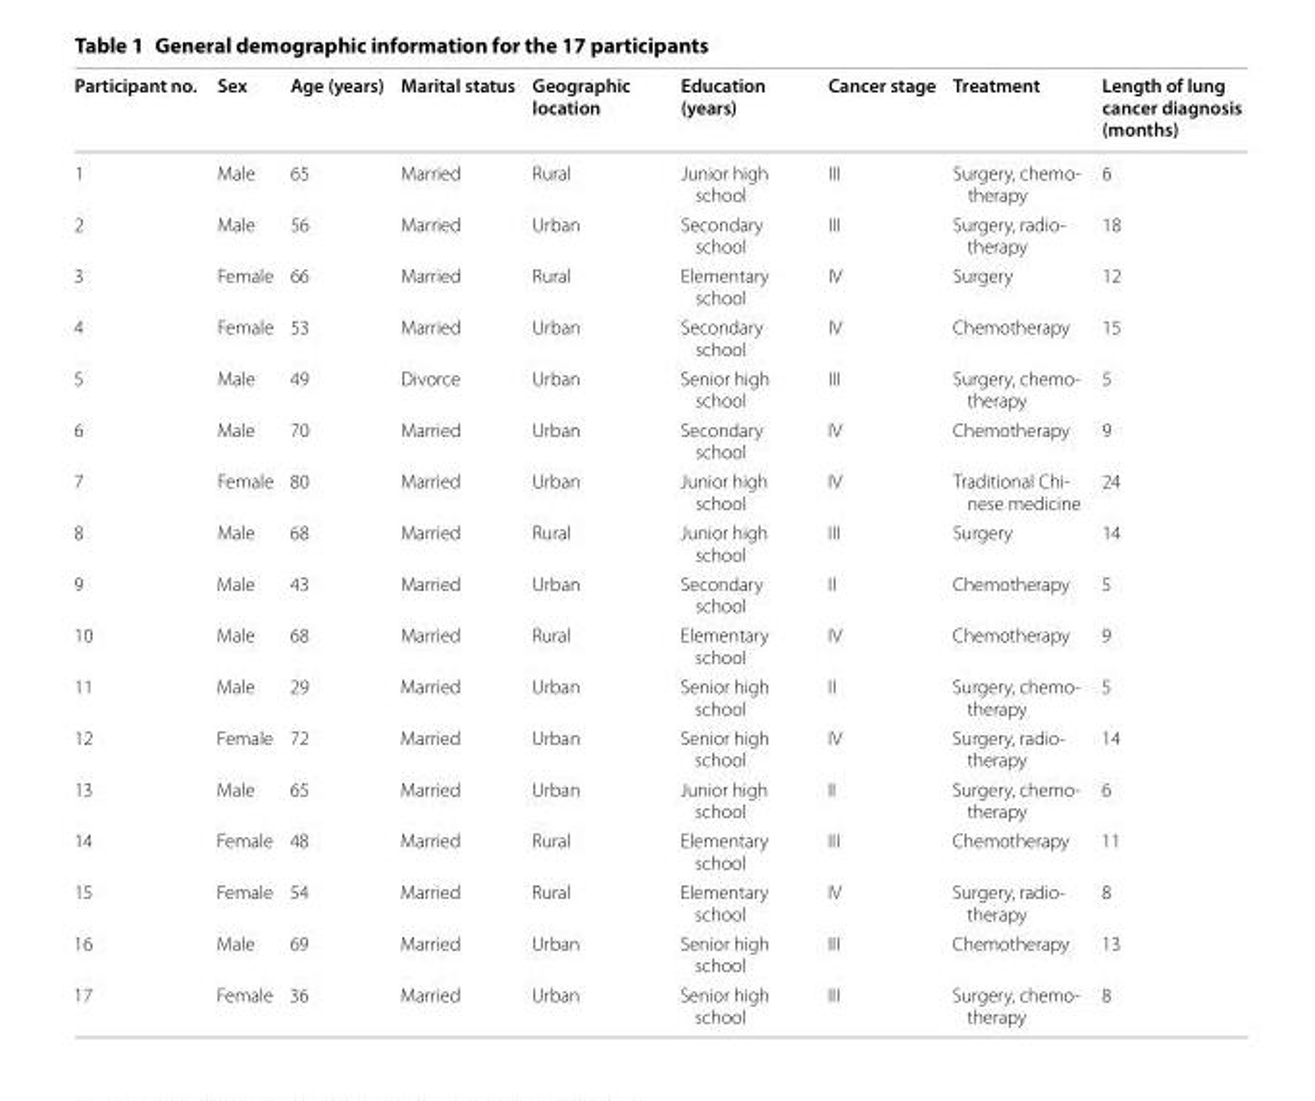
<table><thead><tr><td>Participant no.</td><td>Sex</td><td>Age (years)</td><td>Marital status</td><td>Geographic location</td><td>Education (years)</td><td>Cancer stage</td><td>Treatment</td><td>Length of lung cancer diagnosis (months)</td></tr></thead><tbody><tr><td>1</td><td>Male</td><td>65</td><td>Married</td><td>Rural</td><td>Junior high school</td><td>III</td><td>Surgery, chemo- therapy</td><td>6</td></tr><tr><td>2</td><td>Male</td><td>56</td><td>Married</td><td>Urban</td><td>Secondary school</td><td>III</td><td>Surgery, radio- therapy</td><td>18</td></tr><tr><td>3</td><td>Female</td><td>66</td><td>Married</td><td>Rural</td><td>Elementary school</td><td>IV</td><td>Surgery</td><td>12</td></tr><tr><td>4</td><td>Female</td><td>53</td><td>Married</td><td>Urban</td><td>Secondary school</td><td>IV</td><td>Chemotherapy</td><td>15</td></tr><tr><td>5</td><td>Male</td><td>49</td><td>Divorce</td><td>Urban</td><td>Senior high school</td><td>III</td><td>Surgery, chemo- therapy</td><td>5</td></tr><tr><td>6</td><td>Male</td><td>70</td><td>Married</td><td>Urban</td><td>Secondary school</td><td>IV</td><td>Chemotherapy</td><td>9</td></tr><tr><td>7</td><td>Female</td><td>80</td><td>Married</td><td>Urban</td><td>Junior high school</td><td>IV</td><td>Traditional Chi- nese medicine</td><td>24</td></tr><tr><td>8</td><td>Male</td><td>68</td><td>Married</td><td>Rural</td><td>Junior high school</td><td>III</td><td>Surgery</td><td>14</td></tr><tr><td>9</td><td>Male</td><td>43</td><td>Married</td><td>Urban</td><td>Secondary school</td><td>II</td><td>Chemotherapy</td><td>5</td></tr><tr><td>10</td><td>Male</td><td>68</td><td>Married</td><td>Rural</td><td>Elementary school</td><td>IV</td><td>Chemotherapy</td><td>9</td></tr><tr><td>11</td><td>Male</td><td>29</td><td>Married</td><td>Urban</td><td>Senior high school</td><td>II</td><td>Surgery, chemo- therapy</td><td>5</td></tr><tr><td>12</td><td>Female</td><td>72</td><td>Married</td><td>Urban</td><td>Senior high school</td><td>IV</td><td>Surgery, radio- therapy</td><td>14</td></tr><tr><td>13</td><td>Male</td><td>65</td><td>Married</td><td>Urban</td><td>Junior high school</td><td>II</td><td>Surgery, chemo- therapy</td><td>6</td></tr><tr><td>14</td><td>Female</td><td>48</td><td>Married</td><td>Rural</td><td>Elementary school</td><td>III</td><td>Chemotherapy</td><td>11</td></tr><tr><td>15</td><td>Female</td><td>54</td><td>Married</td><td>Rural</td><td>Elementary school</td><td>IV</td><td>Surgery, radio- therapy</td><td>8</td></tr><tr><td>16</td><td>Male</td><td>69</td><td>Married</td><td>Urban</td><td>Senior high school</td><td>III</td><td>Chemotherapy</td><td>13</td></tr><tr><td>17</td><td>Female</td><td>36</td><td>Married</td><td>Urban</td><td>Senior high school</td><td>III</td><td>Surgery, chemo- therapy</td><td>8</td></tr></tbody></table>